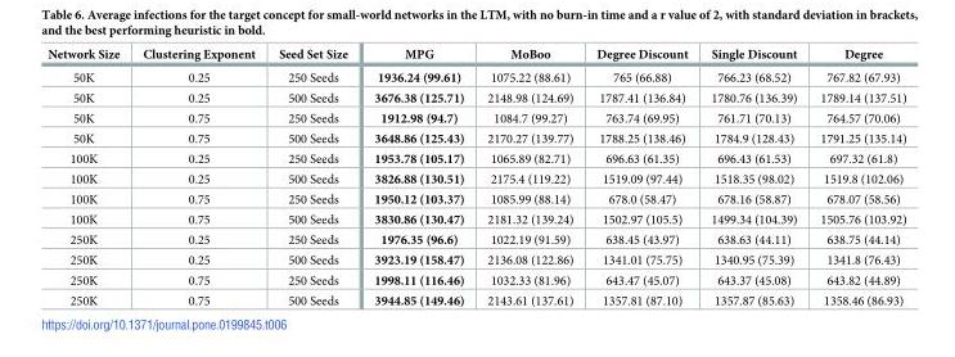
<table><thead><tr><td>Network Size</td><td>Clustering Exponent</td><td>Seed Set Size</td><td>MPG</td><td>MoBoo</td><td>Degree Discount</td><td>Single Discount</td><td>Degree</td></tr></thead><tbody><tr><td>50K</td><td>0.25</td><td>250 Seeds</td><td>1936.24 (99.61)</td><td>1075.22 (88.61)</td><td>765 (66.88)</td><td>766.23 (68.52)</td><td>767.82 (67.93)</td></tr><tr><td>50K</td><td>0.25</td><td>500 Seeds</td><td>3676.38 (125.71)</td><td>2148.98 (124.69)</td><td>1787.41 (136.84)</td><td>1780.76 (136.39)</td><td>1789.14 (137.51)</td></tr><tr><td>50K</td><td>0.75</td><td>250 Seeds</td><td>1912.98 (94.7)</td><td>1084.7 (99.27)</td><td>763.74 (69.95)</td><td>761.71 (70.13)</td><td>764.57 (70.06)</td></tr><tr><td>50K</td><td>0.75</td><td>500 Seeds</td><td>3648.86 (125.43)</td><td>2170.27 (139.77)</td><td>1788.25 (138.46)</td><td>1784.9 (128.43)</td><td>1791.25 (135.14)</td></tr><tr><td>100K</td><td>0.25</td><td>250 Seeds</td><td>1953.78 (105.17)</td><td>1065.89 (82.71)</td><td>696.63 (61.35)</td><td>696.43 (61.53)</td><td>697.32 (61.8)</td></tr><tr><td>100K</td><td>0.25</td><td>500 Seeds</td><td>3826.88 (130.51)</td><td>2175.4 (119.22)</td><td>1519.09 (97.44)</td><td>1518.35 (98.02)</td><td>1519.8 (102.06)</td></tr><tr><td>100K</td><td>0.75</td><td>250 Seeds</td><td>1950.12 (103.37)</td><td>1085.99 (88.14)</td><td>678.0 (58.47)</td><td>678.16 (58.87)</td><td>678.07 (58.56)</td></tr><tr><td>100K</td><td>0.75</td><td>500 Seeds</td><td>3830.86 (130.47)</td><td>2181.32 (139.24)</td><td>1502.97 (105.5)</td><td>1499.34 (104.39)</td><td>1505.76 (103.92)</td></tr><tr><td>250K</td><td>0.25</td><td>250 Seeds</td><td>1976.35 (96.6)</td><td>1022.19 (91.59)</td><td>638.45 (43.97)</td><td>638.63 (44.11)</td><td>638.75 (44.14)</td></tr><tr><td>250K</td><td>0.25</td><td>500 Seeds</td><td>3923.19 (158.47)</td><td>2136.08 (122.86)</td><td>1341.01 (75.75)</td><td>1340.95 (75.39)</td><td>1341.8 (76.43)</td></tr><tr><td>250K</td><td>0.75</td><td>250 Seeds</td><td>1998.11 (116.46)</td><td>1032.33 (81.96)</td><td>643.47 (45.07)</td><td>643.37 (45.08)</td><td>643.82 (44.89)</td></tr><tr><td>250K</td><td>0.75</td><td>500 Seeds</td><td>3944.85 (149.46)</td><td>2143.61 (137.61)</td><td>1357.81 (87.10)</td><td>1357.87 (85.63)</td><td>1358.46 (86.93)</td></tr></tbody></table>